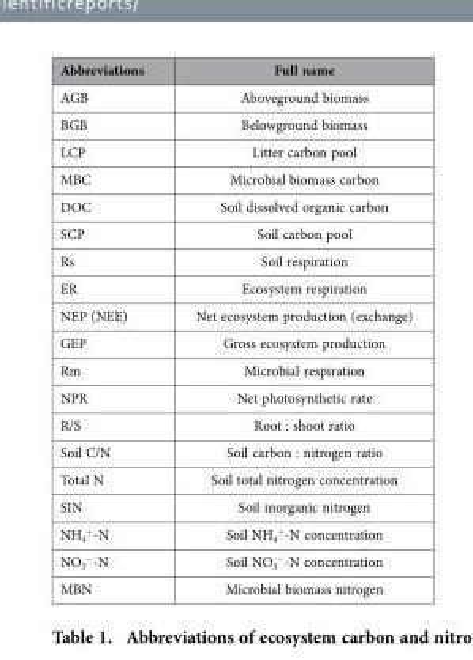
<table><thead><tr><td>Abbreviations</td><td>Full name</td></tr></thead><tbody><tr><td>AGB</td><td>Aboveground biomass</td></tr><tr><td>BGB</td><td>Belowground biomass</td></tr><tr><td>LCP</td><td>Litter carbon pool</td></tr><tr><td>MBC</td><td>Microbial biomass carbon</td></tr><tr><td>DOC</td><td>Soil dissolved organic carbon</td></tr><tr><td>SCP</td><td>Soil carbon pool</td></tr><tr><td>Rs</td><td>Soil respiration</td></tr><tr><td>ER</td><td>Ecosystem respiration</td></tr><tr><td>NEP (NEE)</td><td>Net ecosystem production (exchange)</td></tr><tr><td>GEP</td><td>Gross ecosystem production</td></tr><tr><td>Rm</td><td>Microbial respiration</td></tr><tr><td>NPR</td><td>Net photosynthetic rate</td></tr><tr><td>R/S</td><td>Root : shoot ratio</td></tr><tr><td>Soil C/N</td><td>Soil carbon : nitrogen ratio</td></tr><tr><td>Total N</td><td>Soil total nitrogen concentration</td></tr><tr><td>SIN</td><td>Soil inorganic nitrogen</td></tr><tr><td>NH<sub>4</sub> <sup>+</sup>-N</td><td>Soil NH<sub>4</sub> <sup>+</sup>-N concentration</td></tr><tr><td>NO<sub>3</sub> <sup>−</sup>-N</td><td>Soil NO<sub>3</sub> <sup>−</sup>-N concentration</td></tr><tr><td>MBN</td><td>Microbial biomass nitrogen</td></tr></tbody></table>